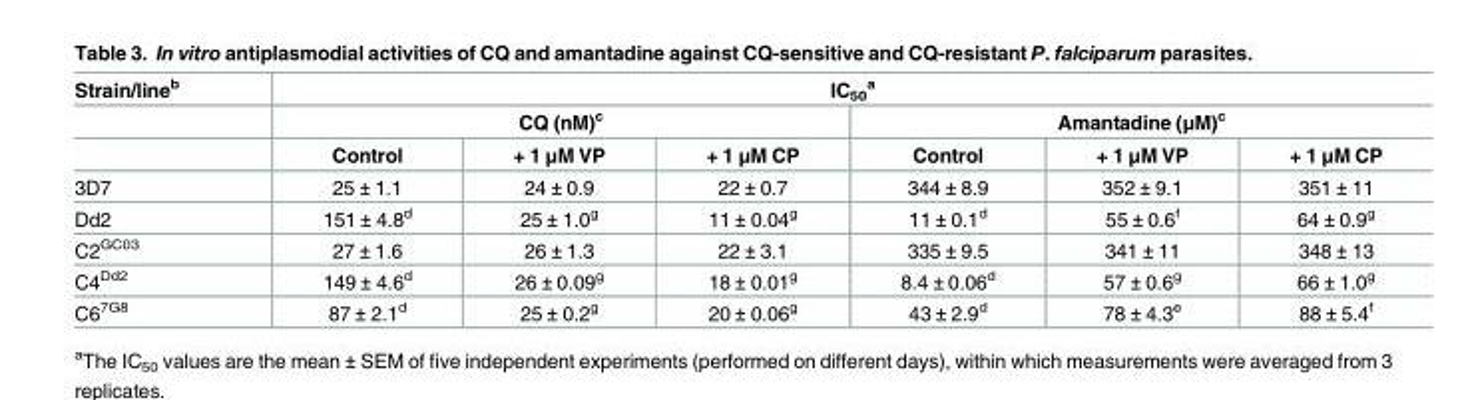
<table><thead><tr><td rowspan="3">Strain/line<sup>b</sup></td><td colspan="6">IC<sub>50</sub> <sup>a</sup></td></tr><tr><td colspan="3">CQ (nM)<sup>c</sup></td><td colspan="3">Amantadine (μM)<sup>c</sup></td></tr><tr><td>Control</td><td>+ 1 μM VP</td><td>+ 1 μM CP</td><td>Control</td><td>+ 1 μM VP</td><td>+ 1 μM CP</td></tr></thead><tbody><tr><td>3D7</td><td>25 ± 1.1</td><td>24 ± 0.9</td><td>22 ± 0.7</td><td>344 ± 8.9</td><td>352 ± 9.1</td><td>351 ± 11</td></tr><tr><td>Dd2</td><td>151 ± 4.8<sup>d</sup></td><td>25 ± 1.0<sup>g</sup></td><td>11 ± 0.04<sup>g</sup></td><td>11 ± 0.1<sup>d</sup></td><td>55 ± 0.6<sup>f</sup></td><td>64 ± 0.9<sup>g</sup></td></tr><tr><td>C2<sup>GC03</sup></td><td>27 ± 1.6</td><td>26 ± 1.3</td><td>22 ± 3.1</td><td>335 ± 9.5</td><td>341 ± 11</td><td>348 ± 13</td></tr><tr><td>C4<sup>Dd2</sup></td><td>149 ± 4.6<sup>d</sup></td><td>26 ± 0.09<sup>g</sup></td><td>18 ± 0.01<sup>g</sup></td><td>8.4 ± 0.06<sup>d</sup></td><td>57 ± 0.6<sup>g</sup></td><td>66 ± 1.0<sup>g</sup></td></tr><tr><td>C6<sup>7G8</sup></td><td>87 ± 2.1<sup>d</sup></td><td>25 ± 0.2<sup>g</sup></td><td>20 ± 0.06<sup>g</sup></td><td>43 ± 2.9<sup>d</sup></td><td>78 ± 4.3<sup>e</sup></td><td>88 ± 5.4<sup>f</sup></td></tr></tbody></table>